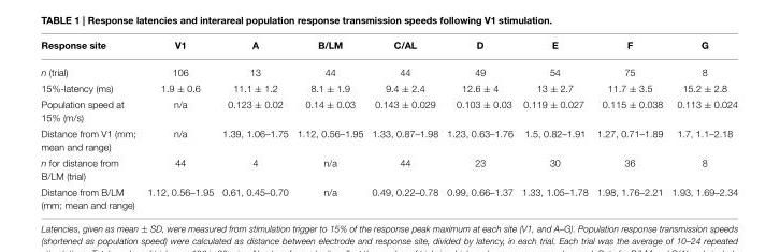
<table><thead><tr><td>Response site</td><td>V1</td><td>A</td><td>B/LM</td><td>C/AL</td><td>D</td><td>E</td><td>F</td><td>G</td></tr></thead><tbody><tr><td>n (trial)</td><td>106</td><td>13</td><td>44</td><td>44</td><td>49</td><td>54</td><td>75</td><td>8</td></tr><tr><td>15%-latency (ms)</td><td>1.9 ± 0.6</td><td>11.1 ± 1.2</td><td>8.1 ± 1.9</td><td>9.4 ± 2.4</td><td>12.6 ± 4</td><td>13 ± 2.7</td><td>11.7 ± 3.5</td><td>15.2 ± 2.8</td></tr><tr><td>Population speed at 15% (m/s)</td><td>n/a</td><td>0.123 ± 0.02</td><td>0.14 ± 0.03</td><td>0.143 ± 0.029</td><td>0.103 ± 0.03</td><td>0.119 ± 0.027</td><td>0.115 ± 0.038</td><td>0.113 ± 0.024</td></tr><tr><td>Distance from V1 (mm; mean and range)</td><td>n/a</td><td>1.39, 1.06–1.75</td><td>1.12, 0.56–1.95</td><td>1.33, 0.87–1.98</td><td>1.23, 0.63–1.76</td><td>1.5, 0.82–1.91</td><td>1.27, 0.71–1.89</td><td>1.7, 1.1–2.18</td></tr><tr><td>n for distance from B/LM (trial)</td><td>44</td><td>4</td><td>n/a</td><td>44</td><td>23</td><td>30</td><td>36</td><td>8</td></tr><tr><td>Distance from B/LM (mm; mean and range)</td><td>1.12, 0.56–1.95</td><td>0.61, 0.45–0.70</td><td>n/a</td><td>0.49, 0.22–0.78</td><td>0.99, 0.66–1.37</td><td>1.33, 1.05–1.78</td><td>1.98, 1.76–2.21</td><td>1.93, 1.69–2.34</td></tr></tbody></table>